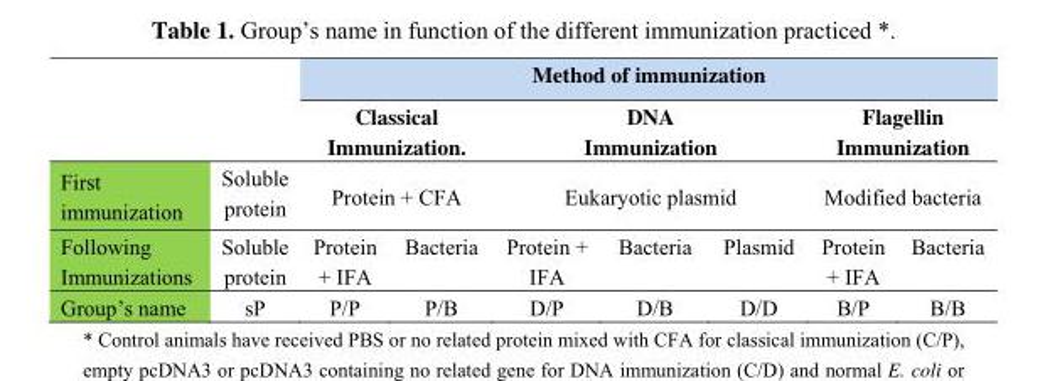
<table><thead><tr><td rowspan="4">First immunization Following Immunizations</td><td rowspan="4">Soluble protein Soluble protein</td><td colspan="7">Method of immunization</td></tr><tr><td rowspan="2" colspan="2">Classical Immunization. Protein + CFA</td><td rowspan="2" colspan="3">DNA Immunization Eukaryotic plasmid</td><td rowspan="2" colspan="2">Flagellin Immunization Modified bacteria</td></tr><tr></tr><tr><td>Protein + IFA</td><td>Bacteria</td><td>Protein + IFA</td><td>Bacteria</td><td>Plasmid</td><td>Protein + IFA</td><td>Bacteria</td></tr></thead><tbody><tr><td>Group’s name</td><td>sP</td><td>P/P</td><td>P/B</td><td>D/P</td><td>D/B</td><td>D/D</td><td>B/P</td><td>B/B</td></tr></tbody></table>